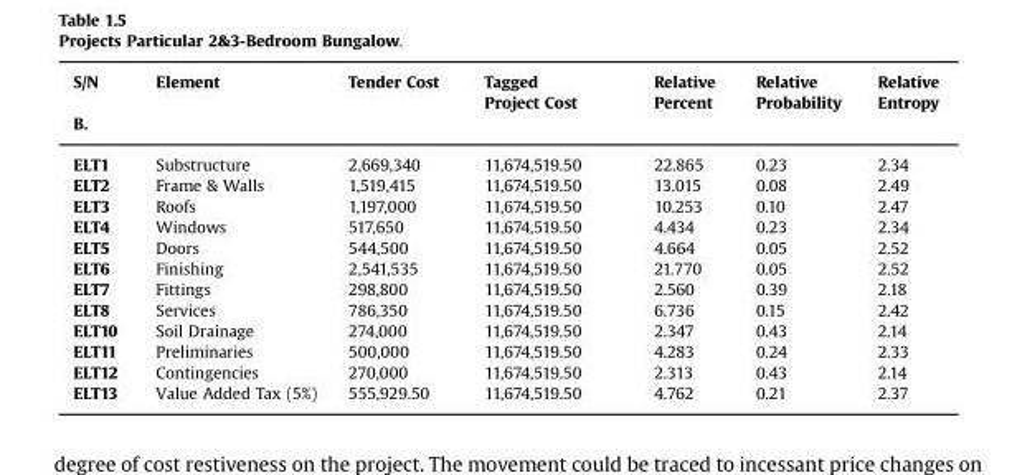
<table><thead><tr><td rowspan="2">S/N B.</td><td rowspan="2">Element</td><td rowspan="2">Tender Cost</td><td rowspan="2">Tagged Project Cost</td><td rowspan="2">Relative Percent</td><td rowspan="2">Relative Probability</td><td rowspan="2">Relative Entropy</td></tr><tr></tr></thead><tbody><tr><td>ELT1</td><td>Substructure</td><td>2,669,340</td><td>11,674,519.50</td><td>22.865</td><td>0.23</td><td>2.34</td></tr><tr><td>ELT2</td><td>Frame &amp; Walls</td><td>1,519,415</td><td>11,674,519.50</td><td>13.015</td><td>0.08</td><td>2.49</td></tr><tr><td>ELT3</td><td>Roofs</td><td>1,197,000</td><td>11,674,519.50</td><td>10.253</td><td>0.10</td><td>2.47</td></tr><tr><td>ELT4</td><td>Windows</td><td>517,650</td><td>11,674,519.50</td><td>4.434</td><td>0.23</td><td>2.34</td></tr><tr><td>ELT5</td><td>Doors</td><td>544,500</td><td>11,674,519.50</td><td>4.664</td><td>0.05</td><td>2.52</td></tr><tr><td>ELT6</td><td>Finishing</td><td>2,541,535</td><td>11,674,519.50</td><td>21.770</td><td>0.05</td><td>2.52</td></tr><tr><td>ELT7</td><td>Fittings</td><td>298,800</td><td>11,674,519.50</td><td>2.560</td><td>0.39</td><td>2.18</td></tr><tr><td>ELT8</td><td>Services</td><td>786,350</td><td>11,674,519.50</td><td>6.736</td><td>0.15</td><td>2.42</td></tr><tr><td>ELT10</td><td>Soil Drainage</td><td>274,000</td><td>11,674,519.50</td><td>2.347</td><td>0.43</td><td>2.14</td></tr><tr><td>ELT11</td><td>Preliminaries</td><td>500,000</td><td>11,674,519.50</td><td>4.283</td><td>0.24</td><td>2.33</td></tr><tr><td>ELT12</td><td>Contingencies</td><td>270,000</td><td>11,674,519.50</td><td>2.313</td><td>0.43</td><td>2.14</td></tr><tr><td>ELT13</td><td>Value Added Tax (5%)</td><td>555,929.50</td><td>11,674,519.50</td><td>4.762</td><td>0.21</td><td>2.37</td></tr></tbody></table>